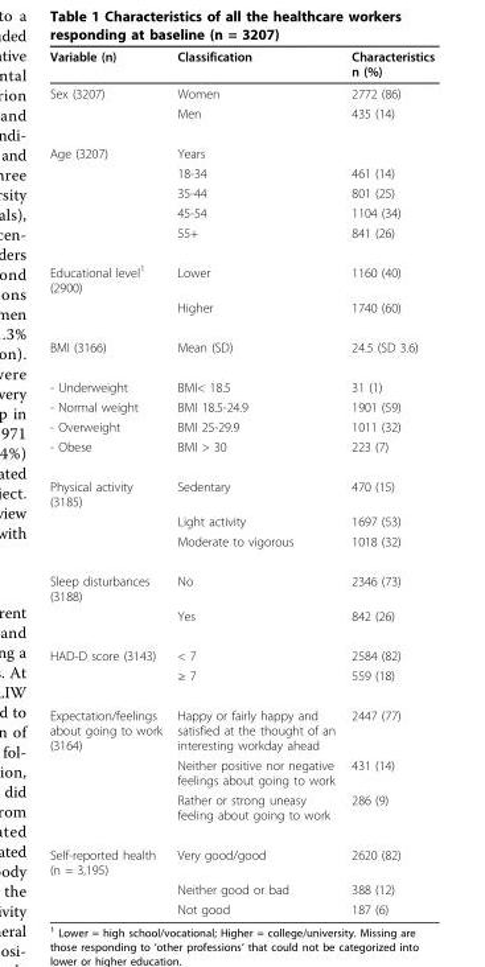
<table><thead><tr><td>Variable (n)</td><td>Classification</td><td>Characteristics n (%)</td></tr></thead><tbody><tr><td rowspan="2">Sex (3207)</td><td>Women</td><td>2772 (86)</td></tr><tr><td>Men</td><td>435 (14)</td></tr><tr><td rowspan="5">Age (3207)</td><td>Years</td><td></td></tr><tr><td>18-34</td><td>461 (14)</td></tr><tr><td>35-44</td><td>801 (25)</td></tr><tr><td>45-54</td><td>1104 (34)</td></tr><tr><td>55+</td><td>841 (26)</td></tr><tr><td rowspan="2">Educational level<sup>1</sup> (2900)</td><td>Lower</td><td>1160 (40)</td></tr><tr><td>Higher</td><td>1740 (60)</td></tr><tr><td>BMI (3166)</td><td>Mean (SD)</td><td>24.5 (SD 3.6)</td></tr><tr><td>- Underweight</td><td>BMI&lt; 18.5</td><td>31 (1)</td></tr><tr><td>- Normal weight</td><td>BMI 18.5-24.9</td><td>1901 (59)</td></tr><tr><td>- Overweight</td><td>BMI 25-29.9</td><td>1011 (32)</td></tr><tr><td>- Obese</td><td>BMI &gt; 30</td><td>223 (7)</td></tr><tr><td rowspan="3">Physical activity (3185)</td><td>Sedentary</td><td>470 (15)</td></tr><tr><td>Light activity</td><td>1697 (53)</td></tr><tr><td>Moderate to vigorous</td><td>1018 (32)</td></tr><tr><td rowspan="2">Sleep disturbances (3188)</td><td>No</td><td>2346 (73)</td></tr><tr><td>Yes</td><td>842 (26)</td></tr><tr><td rowspan="2">HAD-D score (3143)</td><td>&lt; 7</td><td>2584 (82)</td></tr><tr><td>≥ 7</td><td>559 (18)</td></tr><tr><td rowspan="3">Expectation/feelings about going to work (3164)</td><td>Happy or fairly happy and satisfied at the thought of an interesting workday ahead</td><td>2447 (77)</td></tr><tr><td>Neither positive nor negative feelings about going to work</td><td>431 (14)</td></tr><tr><td>Rather or strong uneasy feeling about going to work</td><td>286 (9)</td></tr><tr><td rowspan="3">Self-reported health (n = 3,195)</td><td>Very good/good</td><td>2620 (82)</td></tr><tr><td>Neither good or bad</td><td>388 (12)</td></tr><tr><td>Not good</td><td>187 (6)</td></tr></tbody></table>